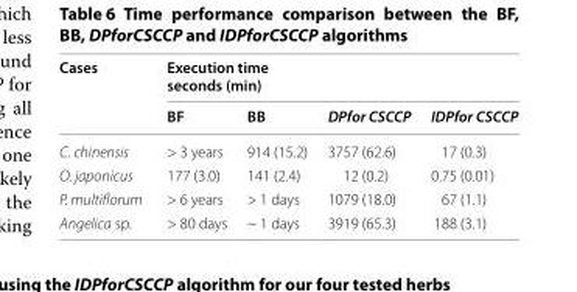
<table><thead><tr><td rowspan="2">Cases</td><td colspan="4">Execution time seconds (min)</td></tr><tr><td>BF</td><td>BB</td><td>DPfor CSCCP</td><td>IDPfor CSCCP</td></tr></thead><tbody><tr><td>C. chinensis</td><td>&gt; 3 years</td><td>914 (15.2)</td><td>3757 (62.6)</td><td>17 (0.3)</td></tr><tr><td>O. japonicus</td><td>177 (3.0)</td><td>141 (2.4)</td><td>12 (0.2)</td><td>0.75 (0.01)</td></tr><tr><td>P. multiflorum</td><td>&gt; 6 years</td><td>&gt; 1 days</td><td>1079 (18.0)</td><td>67 (1.1)</td></tr><tr><td>Angelica sp.</td><td>&gt; 80 days</td><td>~ 1 days</td><td>3919 (65.3)</td><td>188 (3.1)</td></tr></tbody></table>